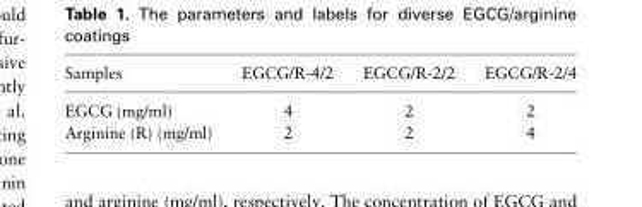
<table><thead><tr><td>Samples</td><td>EGCG/R-4/2</td><td>EGCG/R-2/2</td><td>EGCG/R-2/4</td></tr></thead><tbody><tr><td>EGCG (mg/ml)</td><td>4</td><td>2</td><td>2</td></tr><tr><td>Arginine (R) (mg/ml)</td><td>2</td><td>2</td><td>4</td></tr></tbody></table>